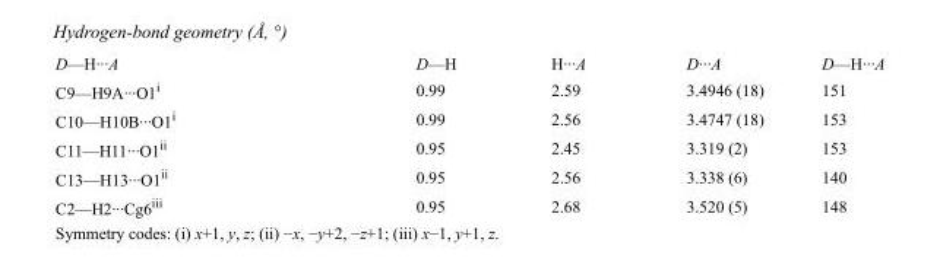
<table><tbody><tr><td>D—H···A</td><td>D—H</td><td>H···A</td><td>D···A</td><td>D—H···A</td></tr><tr><td>C9—H9A···O1<sup>i</sup></td><td>0.99</td><td>2.59</td><td>3.4946 (18)</td><td>151</td></tr><tr><td>C10—H10B···O1<sup>i</sup></td><td>0.99</td><td>2.56</td><td>3.4747 (18)</td><td>153</td></tr><tr><td>C11—H11···O1<sup>ii</sup></td><td>0.95</td><td>2.45</td><td>3.319 (2)</td><td>153</td></tr><tr><td>C13—H13···O1<sup>ii</sup></td><td>0.95</td><td>2.56</td><td>3.338 (6)</td><td>140</td></tr><tr><td>C2—H2···Cg6<sup>iii</sup></td><td>0.95</td><td>2.68</td><td>3.520 (5)</td><td>148</td></tr></tbody></table>